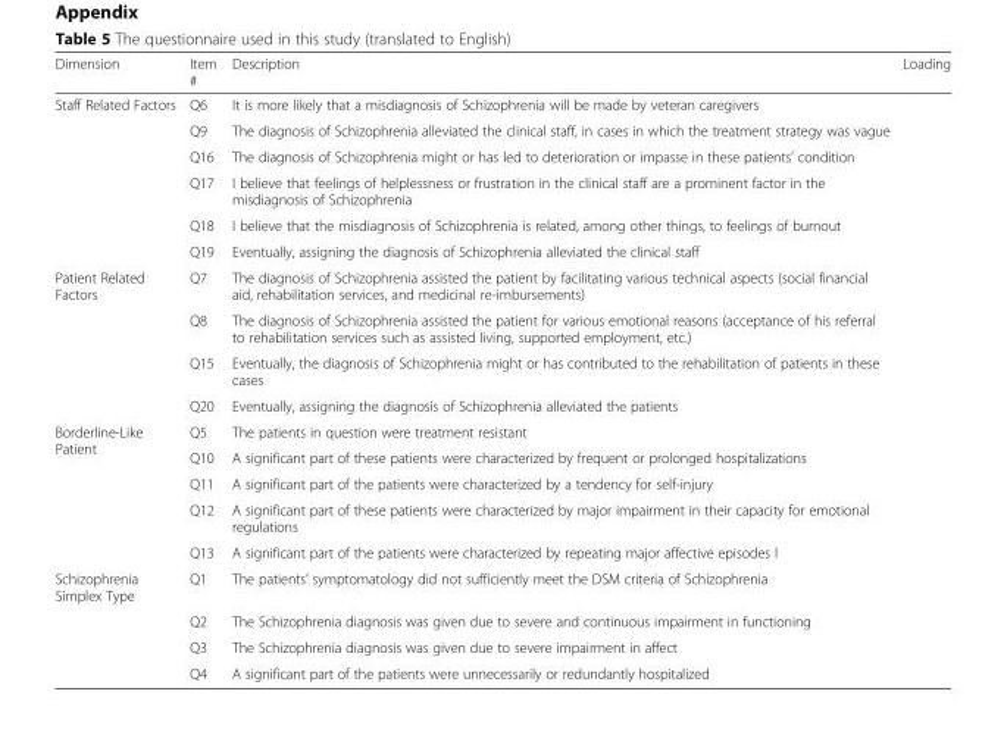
<table><thead><tr><td>Dimension</td><td>Item #</td><td>Description</td><td>Loading</td></tr></thead><tbody><tr><td rowspan="6">Staff Related Factors</td><td>Q6</td><td>It is more likely that a misdiagnosis of Schizophrenia will be made by veteran caregivers</td><td></td></tr><tr><td>Q9</td><td>The diagnosis of Schizophrenia alleviated the clinical staff, in cases in which the treatment strategy was vague</td><td></td></tr><tr><td>Q16</td><td>The diagnosis of Schizophrenia might or has led to deterioration or impasse in these patients’ condition</td><td></td></tr><tr><td>Q17</td><td>I believe that feelings of helplessness or frustration in the clinical staff are a prominent factor in the misdiagnosis of Schizophrenia</td><td></td></tr><tr><td>Q18</td><td>I believe that the misdiagnosis of Schizophrenia is related, among other things, to feelings of burnout</td><td></td></tr><tr><td>Q19</td><td>Eventually, assigning the diagnosis of Schizophrenia alleviated the clinical staff</td><td></td></tr><tr><td rowspan="4">Patient Related Factors</td><td>Q7</td><td>The diagnosis of Schizophrenia assisted the patient by facilitating various technical aspects (social financial aid, rehabilitation services, and medicinal re-imbursements)</td><td></td></tr><tr><td>Q8</td><td>The diagnosis of Schizophrenia assisted the patient for various emotional reasons (acceptance of his referral to rehabilitation services such as assisted living, supported employment, etc.)</td><td></td></tr><tr><td>Q15</td><td>Eventually, the diagnosis of Schizophrenia might or has contributed to the rehabilitation of patients in these cases</td><td></td></tr><tr><td>Q20</td><td>Eventually, assigning the diagnosis of Schizophrenia alleviated the patients</td><td></td></tr><tr><td rowspan="5">Borderline-Like Patient</td><td>Q5</td><td>The patients in question were treatment resistant</td><td></td></tr><tr><td>Q10</td><td>A significant part of these patients were characterized by frequent or prolonged hospitalizations</td><td></td></tr><tr><td>Q11</td><td>A significant part of the patients were characterized by a tendency for self-injury</td><td></td></tr><tr><td>Q12</td><td>A significant part of these patients were characterized by major impairment in their capacity for emotional regulations</td><td></td></tr><tr><td>Q13</td><td>A significant part of the patients were characterized by repeating major affective episodes l</td><td></td></tr><tr><td rowspan="4">Schizophrenia Simplex Type</td><td>Q1</td><td>The patients’ symptomatology did not sufficiently meet the DSM criteria of Schizophrenia</td><td></td></tr><tr><td>Q2</td><td>The Schizophrenia diagnosis was given due to severe and continuous impairment in functioning</td><td></td></tr><tr><td>Q3</td><td>The Schizophrenia diagnosis was given due to severe impairment in affect</td><td></td></tr><tr><td>Q4</td><td>A significant part of the patients were unnecessarily or redundantly hospitalized</td><td></td></tr></tbody></table>